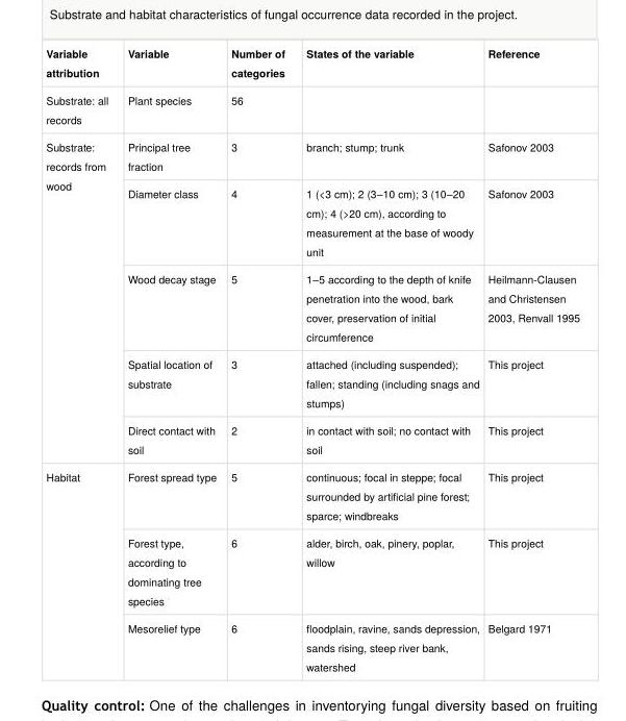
<table><thead><tr><td>Variable attribution</td><td>Variable</td><td>Number of categories</td><td>States of the variable</td><td>Reference</td></tr></thead><tbody><tr><td>Substrate: all records</td><td>Plant species</td><td>56</td><td></td><td></td></tr><tr><td rowspan="5">Substrate: records from wood</td><td>Principal tree fraction</td><td>3</td><td>branch; stump; trunk</td><td>Safonov 2003</td></tr><tr><td>Diameter class</td><td>4</td><td>1 (&lt;3 cm); 2 (3‒10 cm); 3 (10‒20 cm); 4 (&gt;20 cm), according to measurement at the base of woody unit</td><td>Safonov 2003</td></tr><tr><td>Wood decay stage</td><td>5</td><td>1‒5 according to the depth of knife penetration into the wood, bark cover, preservation of initial circumference</td><td>Heilmann-Clausen and Christensen 2003, Renvall 1995</td></tr><tr><td>Spatial location of substrate</td><td>3</td><td>attached (including suspended); fallen; standing (including snags and stumps)</td><td>This project</td></tr><tr><td>Direct contact with soil</td><td>2</td><td>in contact with soil; no contact with soil</td><td>This project</td></tr><tr><td rowspan="3">Habitat</td><td>Forest spread type</td><td>5</td><td>continuous; focal in steppe; focal surrounded by artificial pine forest; sparce; windbreaks</td><td>This project</td></tr><tr><td>Forest type, according to dominating tree species</td><td>6</td><td>alder, birch, oak, pinery, poplar, willow</td><td>This project</td></tr><tr><td>Mesorelief type</td><td>6</td><td>floodplain, ravine, sands depression, sands rising, steep river bank, watershed</td><td>Belgard 1971</td></tr></tbody></table>